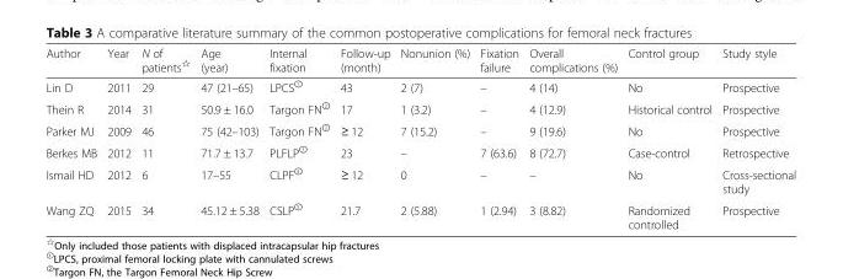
<table><thead><tr><td>Author</td><td>Year</td><td>N of patients<sup>☆</sup></td><td>Age (year)</td><td>Internal fixation</td><td>Follow-up (month)</td><td>Nonunion (%)</td><td>Fixation failure</td><td>Overall complications (%)</td><td>Control group</td><td>Study style</td></tr></thead><tbody><tr><td>Lin D</td><td>2011</td><td>29</td><td>47 (21–65)</td><td>LPCS<sup>①</sup></td><td>43</td><td>2 (7)</td><td>–</td><td>4 (14)</td><td>No</td><td>Prospective</td></tr><tr><td>Thein R</td><td>2014</td><td>31</td><td>50.9 ± 16.0</td><td>Targon FN<sup>②</sup></td><td>17</td><td>1 (3.2)</td><td>–</td><td>4 (12.9)</td><td>Historical control</td><td>Prospective</td></tr><tr><td>Parker MJ</td><td>2009</td><td>46</td><td>75 (42–103)</td><td>Targon FN<sup>②</sup></td><td>≥ 12</td><td>7 (15.2)</td><td>–</td><td>9 (19.6)</td><td>No</td><td>Prospective</td></tr><tr><td>Berkes MB</td><td>2012</td><td>11</td><td>71.7 ± 13.7</td><td>PLFLP<sup>③</sup></td><td>23</td><td>–</td><td>7 (63.6)</td><td>8 (72.7)</td><td>Case-control</td><td>Retrospective</td></tr><tr><td>Ismail HD</td><td>2012</td><td>6</td><td>17–55</td><td>CLPF<sup>④</sup></td><td>≥ 12</td><td>0</td><td>–</td><td>–</td><td>No</td><td>Cross-sectional study</td></tr><tr><td>Wang ZQ</td><td>2015</td><td>34</td><td>45.12 ± 5.38</td><td>CSLP<sup>⑤</sup></td><td>21.7</td><td>2 (5.88)</td><td>1 (2.94)</td><td>3 (8.82)</td><td>Randomized controlled</td><td>Prospective</td></tr></tbody></table>